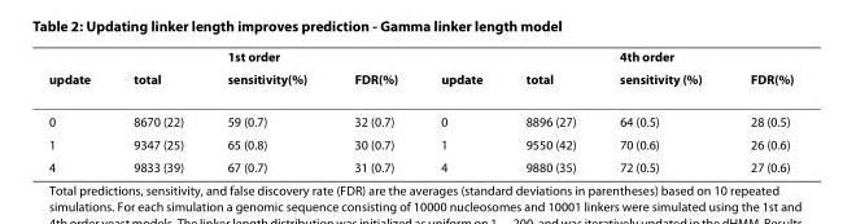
<table><thead><tr><td rowspan="2">update</td><td rowspan="2">total</td><td rowspan="2">1st order sensitivity(%)</td><td rowspan="2">FDR(%)</td><td rowspan="2">update</td><td rowspan="2">total</td><td rowspan="2">4th order sensitivity (%)</td><td rowspan="2">FDR(%)</td></tr><tr></tr></thead><tbody><tr><td>0</td><td>8670 (22)</td><td>59 (0.7)</td><td>32 (0.7)</td><td>0</td><td>8896 (27)</td><td>64 (0.5)</td><td>28 (0.5)</td></tr><tr><td>1</td><td>9347 (25)</td><td>65 (0.8)</td><td>30 (0.7)</td><td>1</td><td>9550 (42)</td><td>70 (0.6)</td><td>26 (0.6)</td></tr><tr><td>4</td><td>9833 (39)</td><td>67 (0.7)</td><td>31 (0.7)</td><td>4</td><td>9880 (35)</td><td>72 (0.5)</td><td>27 (0.6)</td></tr></tbody></table>